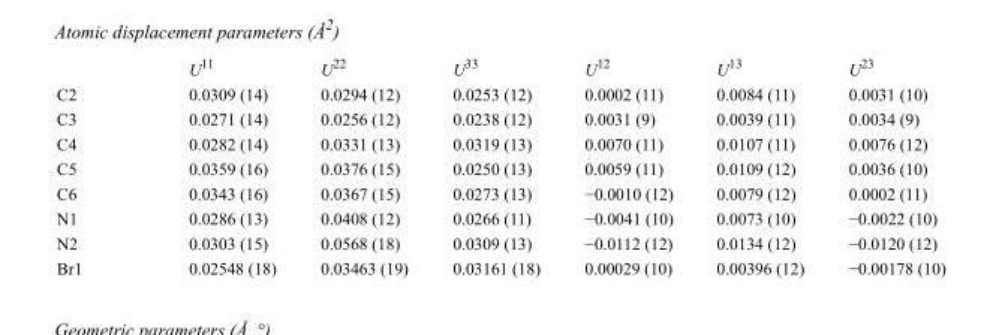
<table><thead><tr><td></td><td>U<sup>11</sup></td><td>U<sup>22</sup></td><td>U<sup>33</sup></td><td>U<sup>12</sup></td><td>U<sup>13</sup></td><td>U<sup>23</sup></td></tr></thead><tbody><tr><td>C2</td><td>0.0309 (14)</td><td>0.0294 (12)</td><td>0.0253 (12)</td><td>0.0002 (11)</td><td>0.0084 (11)</td><td>0.0031 (10)</td></tr><tr><td>C3</td><td>0.0271 (14)</td><td>0.0256 (12)</td><td>0.0238 (12)</td><td>0.0031 (9)</td><td>0.0039 (11)</td><td>0.0034 (9)</td></tr><tr><td>C4</td><td>0.0282 (14)</td><td>0.0331 (13)</td><td>0.0319 (13)</td><td>0.0070 (11)</td><td>0.0107 (11)</td><td>0.0076 (12)</td></tr><tr><td>C5</td><td>0.0359 (16)</td><td>0.0376 (15)</td><td>0.0250 (13)</td><td>0.0059 (11)</td><td>0.0109 (12)</td><td>0.0036 (10)</td></tr><tr><td>C6</td><td>0.0343 (16)</td><td>0.0367 (15)</td><td>0.0273 (13)</td><td>−0.0010 (12)</td><td>0.0079 (12)</td><td>0.0002 (11)</td></tr><tr><td>N1</td><td>0.0286 (13)</td><td>0.0408 (12)</td><td>0.0266 (11)</td><td>−0.0041 (10)</td><td>0.0073 (10)</td><td>−0.0022 (10)</td></tr><tr><td>N2</td><td>0.0303 (15)</td><td>0.0568 (18)</td><td>0.0309 (13)</td><td>−0.0112 (12)</td><td>0.0134 (12)</td><td>−0.0120 (12)</td></tr><tr><td>Br1</td><td>0.02548 (18)</td><td>0.03463 (19)</td><td>0.03161 (18)</td><td>0.00029 (10)</td><td>0.00396 (12)</td><td>−0.00178 (10)</td></tr></tbody></table>